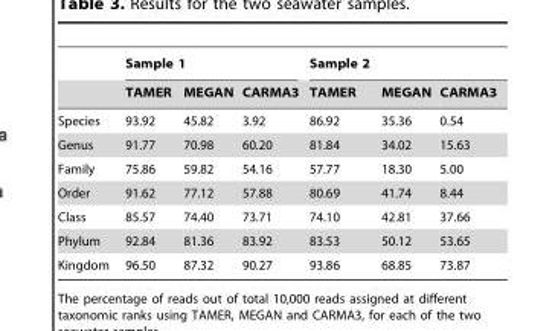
<table><thead><tr><td rowspan="2"></td><td colspan="3">Sample 1</td><td colspan="3">Sample 2</td></tr><tr><td>TAMER</td><td>MEGAN</td><td>CARMA3</td><td>TAMER</td><td>MEGAN</td><td>CARMA3</td></tr></thead><tbody><tr><td>Species</td><td>93.92</td><td>45.82</td><td>3.92</td><td>86.92</td><td>35.36</td><td>0.54</td></tr><tr><td>Genus</td><td>91.77</td><td>70.98</td><td>60.20</td><td>81.84</td><td>34.02</td><td>15.63</td></tr><tr><td>Family</td><td>75.86</td><td>59.82</td><td>54.16</td><td>57.77</td><td>18.30</td><td>5.00</td></tr><tr><td>Order</td><td>91.62</td><td>77.12</td><td>57.88</td><td>80.69</td><td>41.74</td><td>8.44</td></tr><tr><td>Class</td><td>85.57</td><td>74.40</td><td>73.71</td><td>74.10</td><td>42.81</td><td>37.66</td></tr><tr><td>Phylum</td><td>92.84</td><td>81.36</td><td>83.92</td><td>83.53</td><td>50.12</td><td>53.65</td></tr><tr><td>Kingdom</td><td>96.50</td><td>87.32</td><td>90.27</td><td>93.86</td><td>68.85</td><td>73.87</td></tr></tbody></table>